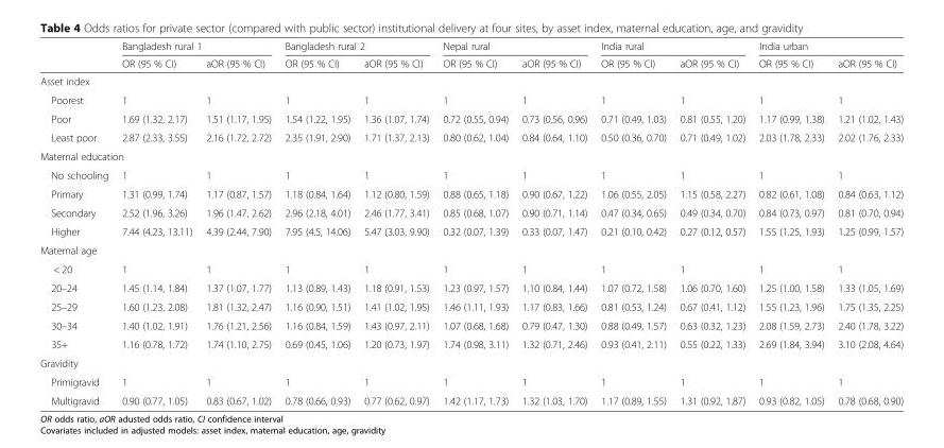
<table><thead><tr><td rowspan="2"></td><td colspan="2">Bangladesh rural 1</td><td colspan="2">Bangladesh rural 2</td><td colspan="2">Nepal rural</td><td colspan="2">India rural</td><td colspan="2">India urban</td></tr><tr><td>OR (95 % CI)</td><td>aOR (95 % CI)</td><td>OR (95 % CI)</td><td>aOR (95 % CI)</td><td>OR (95 % CI)</td><td>aOR (95 % CI)</td><td>OR (95 % CI)</td><td>aOR (95 % CI)</td><td>OR (95 % CI)</td><td>aOR (95 % CI)</td></tr></thead><tbody><tr><td colspan="11">Asset index</td></tr><tr><td>Poorest</td><td>1</td><td>1</td><td>1</td><td>1</td><td>1</td><td>1</td><td>1</td><td>1</td><td>1</td><td>1</td></tr><tr><td>Poor</td><td>1.69 (1.32, 2.17)</td><td>1.51 (1.17, 1.95)</td><td>1.54 (1.22, 1.95)</td><td>1.36 (1.07, 1.74)</td><td>0.72 (0.55, 0.94)</td><td>0.73 (0.56, 0.96)</td><td>0.71 (0.49, 1.03)</td><td>0.81 (0.55, 1.20)</td><td>1.17 (0.99, 1.38)</td><td>1.21 (1.02, 1.43)</td></tr><tr><td>Least poor</td><td>2.87 (2.33, 3.55)</td><td>2.16 (1.72, 2.72)</td><td>2.35 (1.91, 2.90)</td><td>1.71 (1.37, 2.13)</td><td>0.80 (0.62, 1.04)</td><td>0.84 (0.64, 1.10)</td><td>0.50 (0.36, 0.70)</td><td>0.71 (0.49, 1.02)</td><td>2.03 (1.78, 2.33)</td><td>2.02 (1.76, 2.33)</td></tr><tr><td colspan="11">Maternal education</td></tr><tr><td>No schooling</td><td>1</td><td>1</td><td>1</td><td>1</td><td>1</td><td>1</td><td>1</td><td>1</td><td>1</td><td>1</td></tr><tr><td>Primary</td><td>1.31 (0.99, 1.74)</td><td>1.17 (0.87, 1.57)</td><td>1.18 (0.84, 1.64)</td><td>1.12 (0.80, 1.59)</td><td>0.88 (0.65, 1.18)</td><td>0.90 (0.67, 1.22)</td><td>1.06 (0.55, 2.05)</td><td>1.15 (0.58, 2.27)</td><td>0.82 (0.61, 1.08)</td><td>0.84 (0.63, 1.12)</td></tr><tr><td>Secondary</td><td>2.52 (1.96, 3.26)</td><td>1.96 (1.47, 2.62)</td><td>2.96 (2.18, 4.01)</td><td>2.46 (1.77, 3.41)</td><td>0.85 (0.68, 1.07)</td><td>0.90 (0.71, 1.14)</td><td>0.47 (0.34, 0.65)</td><td>0.49 (0.34, 0.70)</td><td>0.84 (0.73, 0.97)</td><td>0.81 (0.70, 0.94)</td></tr><tr><td>Higher</td><td>7.44 (4.23, 13.11)</td><td>4.39 (2.44, 7.90)</td><td>7.95 (4.5, 14.06)</td><td>5.47 (3.03, 9.90)</td><td>0.32 (0.07, 1.39)</td><td>0.33 (0.07, 1.47)</td><td>0.21 (0.10, 0.42)</td><td>0.27 (0.12, 0.57)</td><td>1.55 (1.25, 1.93)</td><td>1.25 (0.99, 1.57)</td></tr><tr><td colspan="11">Maternal age</td></tr><tr><td>&lt; 20</td><td>1</td><td>1</td><td>1</td><td>1</td><td>1</td><td>1</td><td>1</td><td>1</td><td>1</td><td>1</td></tr><tr><td>20–24</td><td>1.45 (1.14, 1.84)</td><td>1.37 (1.07, 1.77)</td><td>1.13 (0.89, 1.43)</td><td>1.18 (0.91, 1.53)</td><td>1.23 (0.97, 1.57)</td><td>1.10 (0.84, 1.44)</td><td>1.07 (0.72, 1.58)</td><td>1.06 (0.70, 1.60)</td><td>1.25 (1.00, 1.58)</td><td>1.33 (1.05, 1.69)</td></tr><tr><td>25–29</td><td>1.60 (1.23, 2.08)</td><td>1.81 (1.32, 2.47)</td><td>1.16 (0.90, 1.51)</td><td>1.41 (1.02, 1.95)</td><td>1.46 (1.11, 1.93)</td><td>1.17 (0.83, 1.66)</td><td>0.81 (0.53, 1.24)</td><td>0.67 (0.41, 1.12)</td><td>1.55 (1.23, 1.96)</td><td>1.75 (1.35, 2.25)</td></tr><tr><td>30–34</td><td>1.40 (1.02, 1.91)</td><td>1.76 (1.21, 2.56)</td><td>1.16 (0.84, 1.59)</td><td>1.43 (0.97, 2.11)</td><td>1.07 (0.68, 1.68)</td><td>0.79 (0.47, 1.30)</td><td>0.88 (0.49, 1.57)</td><td>0.63 (0.32, 1.23)</td><td>2.08 (1.59, 2.73)</td><td>2.40 (1.78, 3.22)</td></tr><tr><td>35+</td><td>1.16 (0.78, 1.72)</td><td>1.74 (1.10, 2.75)</td><td>0.69 (0.45, 1.06)</td><td>1.20 (0.73, 1.97)</td><td>1.74 (0.98, 3.11)</td><td>1.32 (0.71, 2.46)</td><td>0.93 (0.41, 2.11)</td><td>0.55 (0.22, 1.33)</td><td>2.69 (1.84, 3.94)</td><td>3.10 (2.08, 4.64)</td></tr><tr><td colspan="11">Gravidity</td></tr><tr><td>Primigravid</td><td>1</td><td>1</td><td>1</td><td>1</td><td>1</td><td>1</td><td>1</td><td>1</td><td>1</td><td>1</td></tr><tr><td>Multigravid</td><td>0.90 (0.77, 1.05)</td><td>0.83 (0.67, 1.02)</td><td>0.78 (0.66, 0.93)</td><td>0.77 (0.62, 0.97)</td><td>1.42 (1.17, 1.73)</td><td>1.32 (1.03, 1.70)</td><td>1.17 (0.89, 1.55)</td><td>1.31 (0.92, 1.87)</td><td>0.93 (0.82, 1.05)</td><td>0.78 (0.68, 0.90)</td></tr></tbody></table>